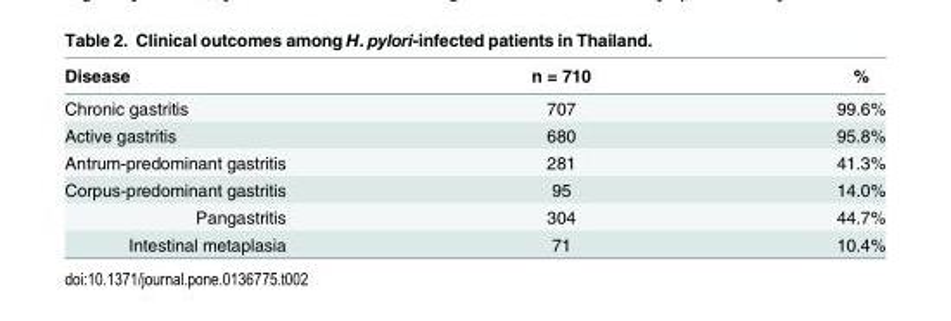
<table><thead><tr><td>Disease</td><td>n = 710</td><td>%</td></tr></thead><tbody><tr><td>Chronic gastritis</td><td>707</td><td>99.6%</td></tr><tr><td>Active gastritis</td><td>680</td><td>95.8%</td></tr><tr><td>Antrum-predominant gastritis</td><td>281</td><td>41.3%</td></tr><tr><td>Corpus-predominant gastritis</td><td>95</td><td>14.0%</td></tr><tr><td>Pangastritis</td><td>304</td><td>44.7%</td></tr><tr><td>Intestinal metaplasia</td><td>71</td><td>10.4%</td></tr></tbody></table>